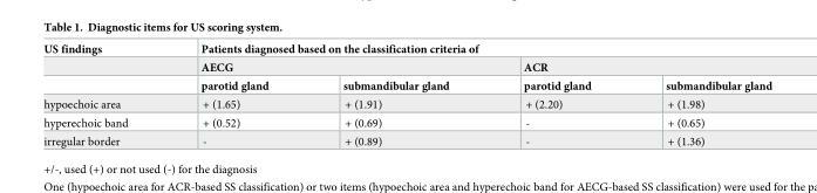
<table><thead><tr><td rowspan="3">US findings</td><td colspan="4">Patients diagnosed based on the classification criteria of</td></tr><tr><td colspan="2">AECG</td><td colspan="2">ACR</td></tr><tr><td>parotid gland</td><td>submandibular gland</td><td>parotid gland</td><td>submandibular gland</td></tr></thead><tbody><tr><td>hypoechoic area</td><td>+ (1.65)</td><td>+ (1.91)</td><td>+ (2.20)</td><td>+ (1.98)</td></tr><tr><td>hyperechoic band</td><td>+ (0.52)</td><td>+ (0.69)</td><td>-</td><td>+ (0.65)</td></tr><tr><td>irregular border</td><td>-</td><td>+ (0.89)</td><td>-</td><td>+ (1.36)</td></tr></tbody></table>